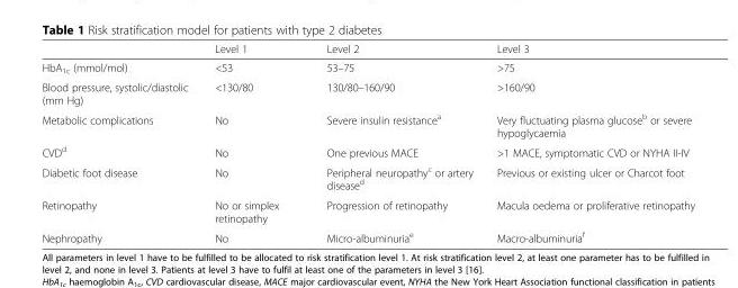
<table><thead><tr><td></td><td>Level 1</td><td>Level 2</td><td>Level 3</td></tr></thead><tbody><tr><td>HbA<sub>1c</sub> (mmol/mol)</td><td>&lt;53</td><td>53–75</td><td>&gt;75</td></tr><tr><td>Blood pressure, systolic/diastolic (mm Hg)</td><td>&lt;130/80</td><td>130/80–160/90</td><td>&gt;160/90</td></tr><tr><td>Metabolic complications</td><td>No</td><td>Severe insulin resistance<sup>a</sup></td><td>Very fluctuating plasma glucose<sup>b</sup> or severe hypoglycaemia</td></tr><tr><td>CVD<sup>d</sup></td><td>No</td><td>One previous MACE</td><td>&gt;1 MACE, symptomatic CVD or NYHA II-IV</td></tr><tr><td>Diabetic foot disease</td><td>No</td><td>Peripheral neuropathy<sup>c</sup> or artery disease<sup>d</sup></td><td>Previous or existing ulcer or Charcot foot</td></tr><tr><td>Retinopathy</td><td>No or simplex retinopathy</td><td>Progression of retinopathy</td><td>Macula oedema or proliferative retinopathy</td></tr><tr><td>Nephropathy</td><td>No</td><td>Micro-albuminuria<sup>e</sup></td><td>Macro-albuminuria<sup>f</sup></td></tr></tbody></table>